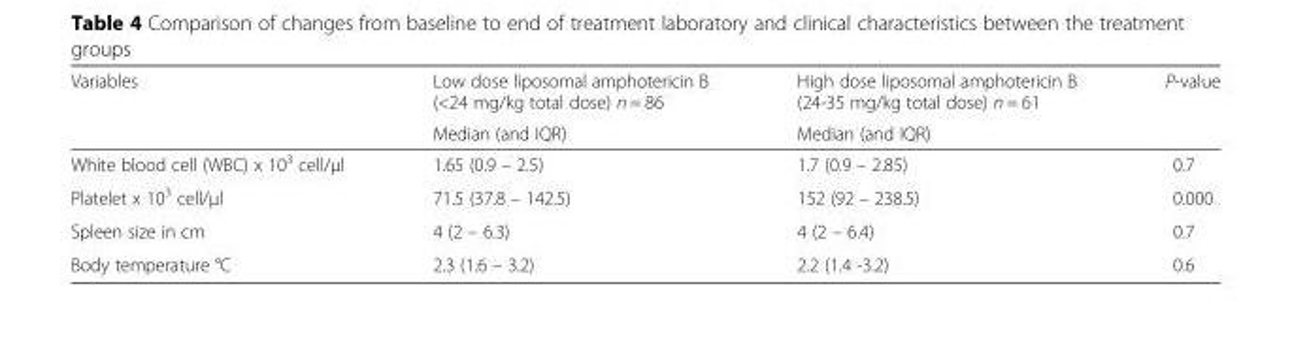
<table><thead><tr><td rowspan="2">Variables</td><td rowspan="2">Low dose liposomal amphotericin B (&lt;24 mg/kg total dose) n = 86 Median (and IQR)</td><td rowspan="2">High dose liposomal amphotericin B (24-35 mg/kg total dose) n = 61 Median (and IQR)</td><td rowspan="2">P-value</td></tr><tr></tr></thead><tbody><tr><td>White blood cell (WBC) x 10<sup>3</sup> cell/μl</td><td>1.65 (0.9 – 2.5)</td><td>1.7 (0.9 – 2.85)</td><td>0.7</td></tr><tr><td>Platelet x 10<sup>3</sup> cell/μl</td><td>71.5 (37.8 – 142.5)</td><td>152 (92 – 238.5)</td><td>0.000</td></tr><tr><td>Spleen size in cm</td><td>4 (2 – 6.3)</td><td>4 (2 – 6.4)</td><td>0.7</td></tr><tr><td>Body temperature °C</td><td>2.3 (1.6 – 3.2)</td><td>2.2 (1.4 -3.2)</td><td>0.6</td></tr></tbody></table>